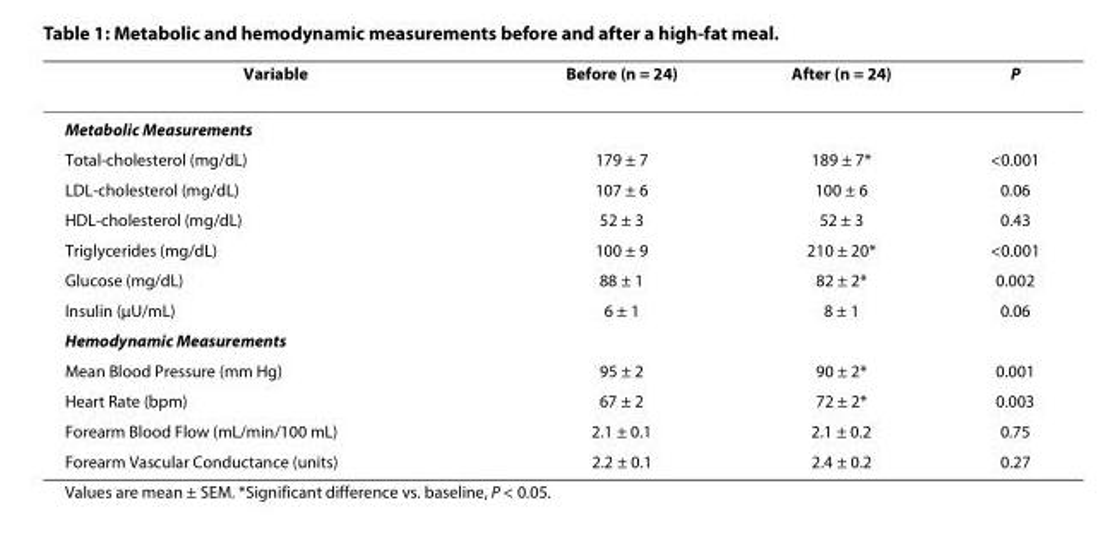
<table><thead><tr><td>Variable</td><td>Before (n = 24)</td><td>After (n = 24)</td><td>P</td></tr></thead><tbody><tr><td colspan="4">Metabolic Measurements</td></tr><tr><td>Total-cholesterol (mg/dL)</td><td>179 ± 7</td><td>189 ± 7*</td><td>&lt;0.001</td></tr><tr><td>LDL-cholesterol (mg/dL)</td><td>107 ± 6</td><td>100 ± 6</td><td>0.06</td></tr><tr><td>HDL-cholesterol (mg/dL)</td><td>52 ± 3</td><td>52 ± 3</td><td>0.43</td></tr><tr><td>Triglycerides (mg/dL)</td><td>100 ± 9</td><td>210 ± 20*</td><td>&lt;0.001</td></tr><tr><td>Glucose (mg/dL)</td><td>88 ± 1</td><td>82 ± 2*</td><td>0.002</td></tr><tr><td>Insulin (μU/mL)</td><td>6 ± 1</td><td>8 ± 1</td><td>0.06</td></tr><tr><td colspan="4">Hemodynamic Measurements</td></tr><tr><td>Mean Blood Pressure (mm Hg)</td><td>95 ± 2</td><td>90 ± 2*</td><td>0.001</td></tr><tr><td>Heart Rate (bpm)</td><td>67 ± 2</td><td>72 ± 2*</td><td>0.003</td></tr><tr><td>Forearm Blood Flow (mL/min/100 mL)</td><td>2.1 ± 0.1</td><td>2.1 ± 0.2</td><td>0.75</td></tr><tr><td>Forearm Vascular Conductance (units)</td><td>2.2 ± 0.1</td><td>2.4 ± 0.2</td><td>0.27</td></tr></tbody></table>